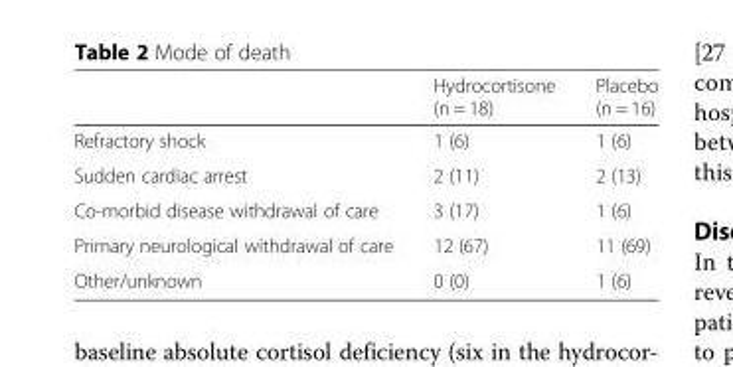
<table><thead><tr><td></td><td>Hydrocortisone (n = 18)</td><td>Placebo (n = 16)</td></tr></thead><tbody><tr><td>Refractory shock</td><td>1 (6)</td><td>1 (6)</td></tr><tr><td>Sudden cardiac arrest</td><td>2 (11)</td><td>2 (13)</td></tr><tr><td>Co-morbid disease withdrawal of care</td><td>3 (17)</td><td>1 (6)</td></tr><tr><td>Primary neurological withdrawal of care</td><td>12 (67)</td><td>11 (69)</td></tr><tr><td>Other/unknown</td><td>0 (0)</td><td>1 (6)</td></tr></tbody></table>